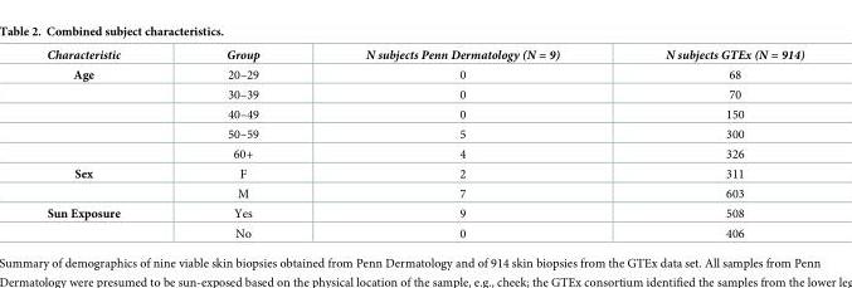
<table><thead><tr><td>Characteristic</td><td>Group</td><td>N subjects Penn Dermatology (N = 9)</td><td>N subjects GTEx (N = 914)</td></tr></thead><tbody><tr><td rowspan="5">Age</td><td>20–29</td><td>0</td><td>68</td></tr><tr><td>30–39</td><td>0</td><td>70</td></tr><tr><td>40–49</td><td>0</td><td>150</td></tr><tr><td>50–59</td><td>5</td><td>300</td></tr><tr><td>60+</td><td>4</td><td>326</td></tr><tr><td rowspan="2">Sex</td><td>F</td><td>2</td><td>311</td></tr><tr><td>M</td><td>7</td><td>603</td></tr><tr><td rowspan="2">Sun Exposure</td><td>Yes</td><td>9</td><td>508</td></tr><tr><td>No</td><td>0</td><td>406</td></tr></tbody></table>